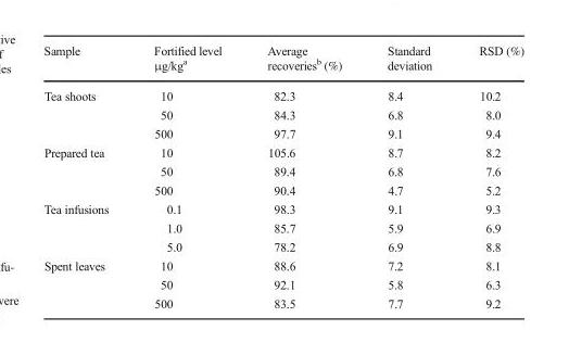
<table><thead><tr><td>Sample</td><td>Fortified level μg/kg<sup>a</sup></td><td>Average recoveries<sup>b</sup> (%)</td><td>Standard deviation</td><td>RSD (%)</td></tr></thead><tbody><tr><td rowspan="3">Tea shoots</td><td>10</td><td>82.3</td><td>8.4</td><td>10.2</td></tr><tr><td>50</td><td>84.3</td><td>6.8</td><td>8.0</td></tr><tr><td>500</td><td>97.7</td><td>9.1</td><td>9.4</td></tr><tr><td rowspan="3">Prepared tea</td><td>10</td><td>105.6</td><td>8.7</td><td>8.2</td></tr><tr><td>50</td><td>89.4</td><td>6.8</td><td>7.6</td></tr><tr><td>500</td><td>90.4</td><td>4.7</td><td>5.2</td></tr><tr><td rowspan="3">Tea infusions</td><td>0.1</td><td>98.3</td><td>9.1</td><td>9.3</td></tr><tr><td>1.0</td><td>85.7</td><td>5.9</td><td>6.9</td></tr><tr><td>5.0</td><td>78.2</td><td>6.9</td><td>8.8</td></tr><tr><td rowspan="3">Spent leaves</td><td>10</td><td>88.6</td><td>7.2</td><td>8.1</td></tr><tr><td>50</td><td>92.1</td><td>5.8</td><td>6.3</td></tr><tr><td>500</td><td>83.5</td><td>7.7</td><td>9.2</td></tr></tbody></table>